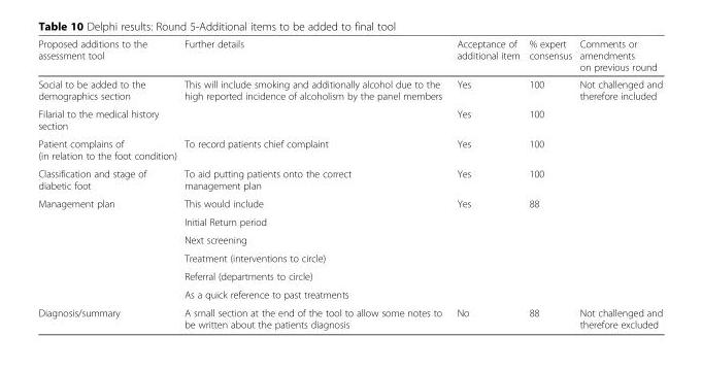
<table><thead><tr><td>Proposed additions to the assessment tool</td><td>Further details</td><td>Acceptance of additional item</td><td>% expert consensus</td><td>Comments or amendments on previous round</td></tr></thead><tbody><tr><td>Social to be added to the demographics section</td><td>This will include smoking and additionally alcohol due to the high reported incidence of alcoholism by the panel members</td><td>Yes</td><td>100</td><td rowspan="10">Not challenged and therefore included</td></tr><tr><td>Filarial to the medical history section</td><td></td><td>Yes</td><td>100</td></tr><tr><td>Patient complains of (in relation to the foot condition)</td><td>To record patients chief complaint</td><td>Yes</td><td>100</td></tr><tr><td>Classification and stage of diabetic foot</td><td>To aid putting patients onto the correct management plan</td><td>Yes</td><td>100</td></tr><tr><td rowspan="6">Management plan</td><td>This would include</td><td rowspan="6">Yes</td><td rowspan="6">88</td></tr><tr><td>Initial Return period</td></tr><tr><td>Next screening</td></tr><tr><td>Treatment (interventions to circle)</td></tr><tr><td>Referral (departments to circle)</td></tr><tr><td>As a quick reference to past treatments</td></tr><tr><td>Diagnosis/summary</td><td>A small section at the end of the tool to allow some notes to be written about the patients diagnosis</td><td>No</td><td>88</td><td>Not challenged and therefore excluded</td></tr></tbody></table>